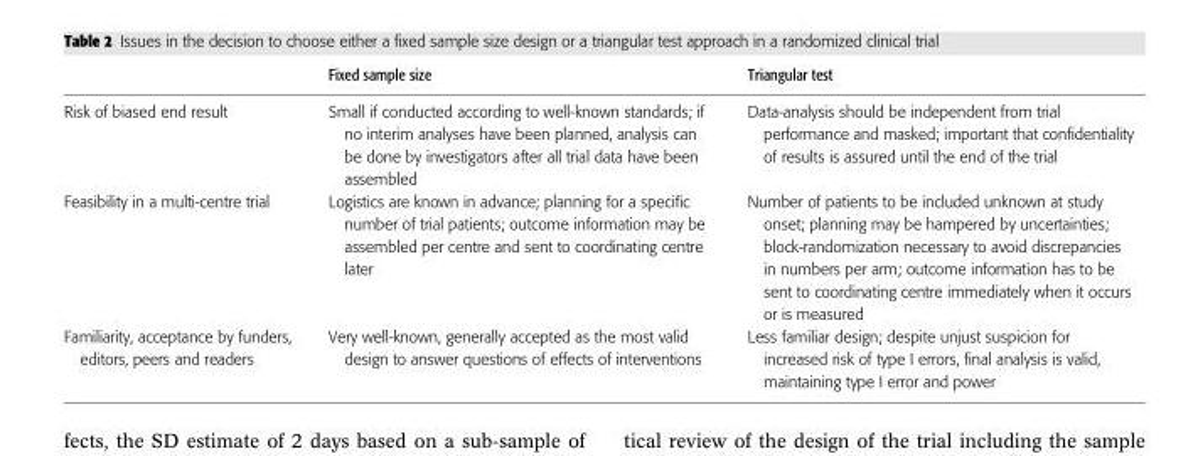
<table><thead><tr><td></td><td>Fixed sample size</td><td>Triangular test</td></tr></thead><tbody><tr><td>Risk of biased end result</td><td>Small if conducted according to well-known standards; if no interim analyses have been planned, analysis can be done by investigators after all trial data have been assembled</td><td>Data-analysis should be independent from trial performance and masked; important that confidentiality of results is assured until the end of the trial</td></tr><tr><td>Feasibility in a multi-centre trial</td><td>Logistics are known in advance; planning for a specific number of trial patients; outcome information may be assembled per centre and sent to coordinating centre later</td><td>Number of patients to be included unknown at study onset; planning may be hampered by uncertainties; block-randomization necessary to avoid discrepancies in numbers per arm; outcome information has to be sent to coordinating centre immediately when it occurs or is measured</td></tr><tr><td>Familiarity, acceptance by funders, editors, peers and readers</td><td>Very well-known, generally accepted as the most valid design to answer questions of effects of interventions</td><td>Less familiar design; despite unjust suspicion for increased risk of type I errors, final analysis is valid, maintaining type I error and power</td></tr></tbody></table>